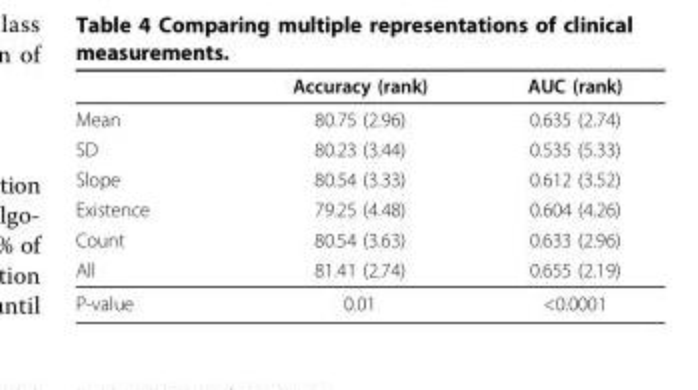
<table><thead><tr><td></td><td>Accuracy (rank)</td><td>AUC (rank)</td></tr></thead><tbody><tr><td>Mean</td><td>80.75 (2.96)</td><td>0.635 (2.74)</td></tr><tr><td>SD</td><td>80.23 (3.44)</td><td>0.535 (5.33)</td></tr><tr><td>Slope</td><td>80.54 (3.33)</td><td>0.612 (3.52)</td></tr><tr><td>Existence</td><td>79.25 (4.48)</td><td>0.604 (4.26)</td></tr><tr><td>Count</td><td>80.54 (3.63)</td><td>0.633 (2.96)</td></tr><tr><td>All</td><td>81.41 (2.74)</td><td>0.655 (2.19)</td></tr><tr><td>P-value</td><td>0.01</td><td>&lt;0.0001</td></tr></tbody></table>